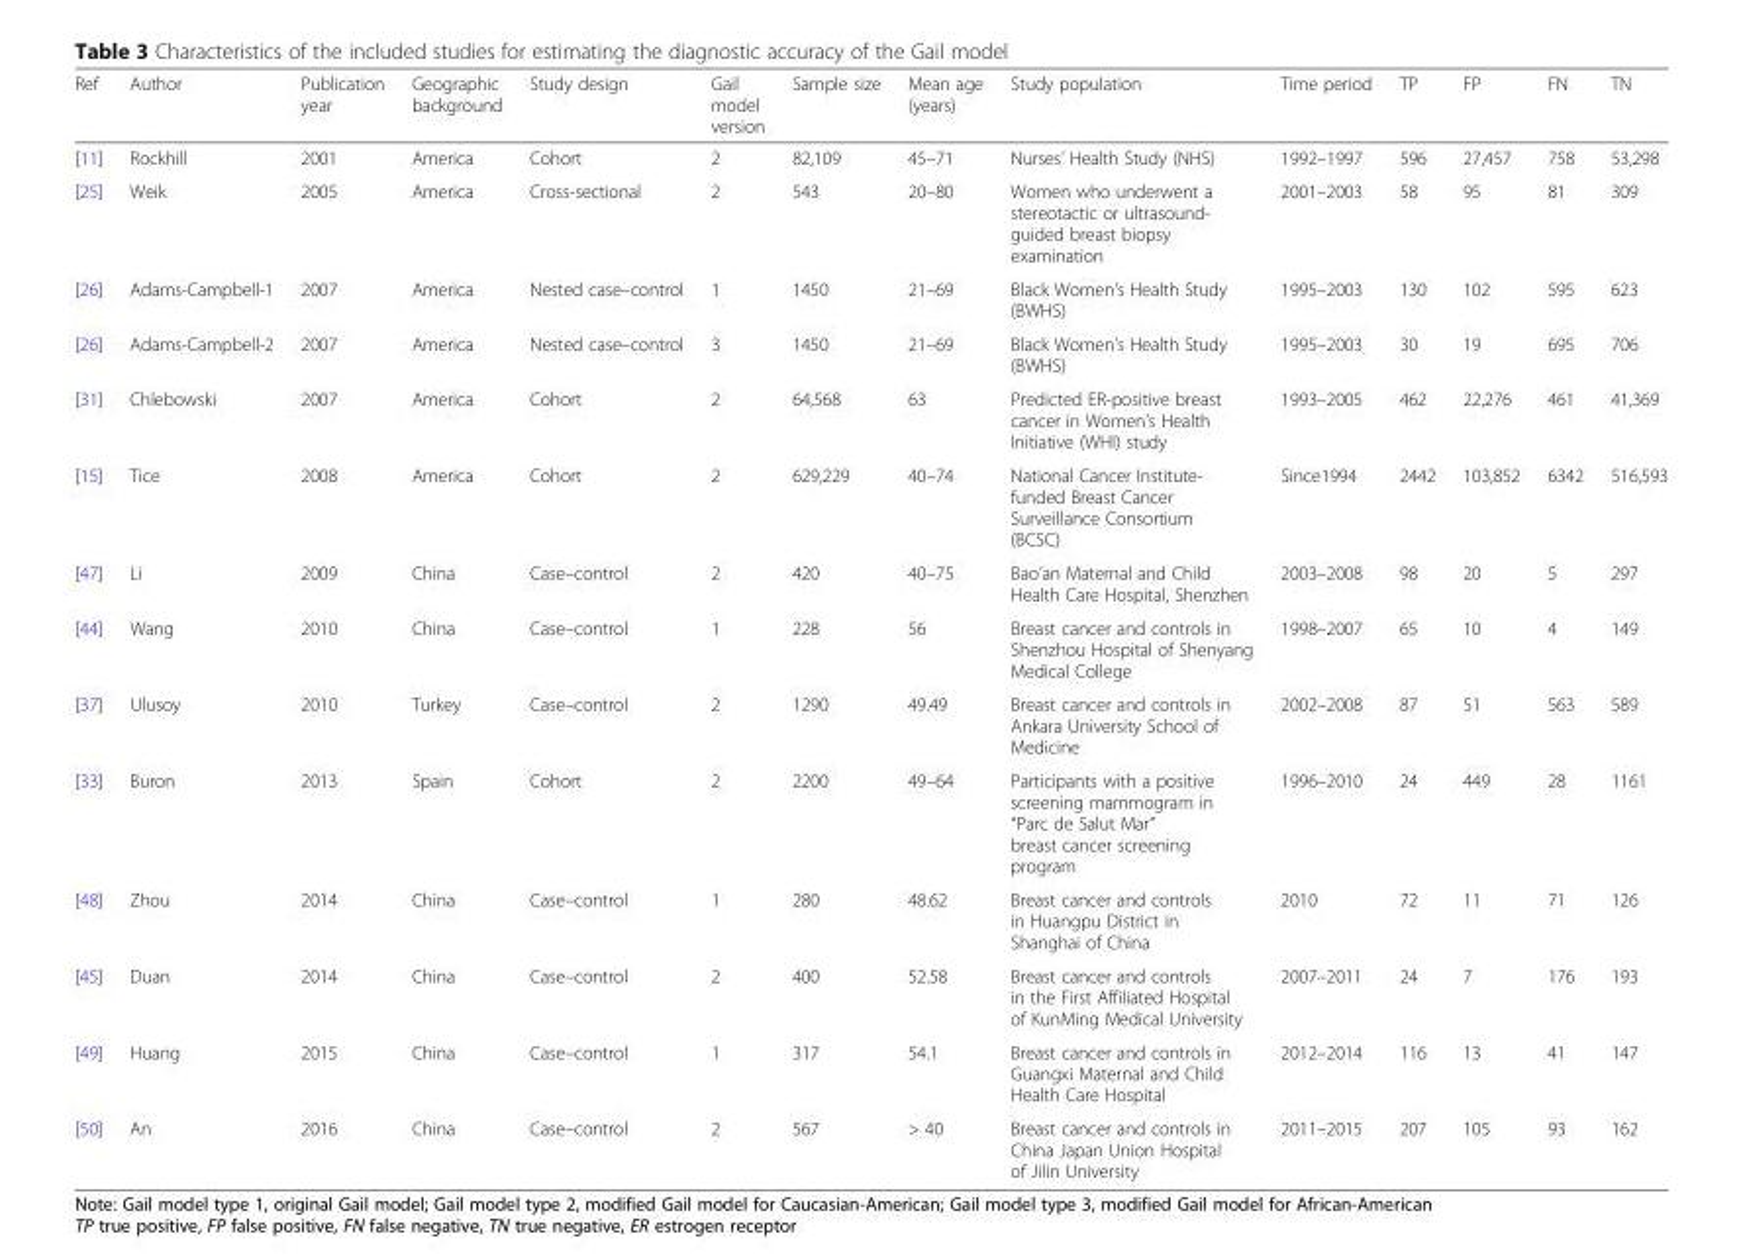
<table><thead><tr><td>Ref</td><td>Author</td><td>Publication year</td><td>Geographic background</td><td>Study design</td><td>Gail model version</td><td>Sample size</td><td>Mean age (years)</td><td>Study population</td><td>Time period</td><td>TP</td><td>FP</td><td>FN</td><td>TN</td></tr></thead><tbody><tr><td>[11]</td><td>Rockhill</td><td>2001</td><td>America</td><td>Cohort</td><td>2</td><td>82,109</td><td>45–71</td><td>Nurses’ Health Study (NHS)</td><td>1992–1997</td><td>596</td><td>27,457</td><td>758</td><td>53,298</td></tr><tr><td>[25]</td><td>Weik</td><td>2005</td><td>America</td><td>Cross-sectional</td><td>2</td><td>543</td><td>20–80</td><td>Women who underwent a stereotactic or ultrasound- guided breast biopsy examination</td><td>2001–2003</td><td>58</td><td>95</td><td>81</td><td>309</td></tr><tr><td>[26]</td><td>Adams-Campbell-1</td><td>2007</td><td>America</td><td>Nested case–control</td><td>1</td><td>1450</td><td>21–69</td><td>Black Women’s Health Study (BWHS)</td><td>1995–2003</td><td>130</td><td>102</td><td>595</td><td>623</td></tr><tr><td>[26]</td><td>Adams-Campbell-2</td><td>2007</td><td>America</td><td>Nested case–control</td><td>3</td><td>1450</td><td>21–69</td><td>Black Women’s Health Study (BWHS)</td><td>1995–2003</td><td>30</td><td>19</td><td>695</td><td>706</td></tr><tr><td>[31]</td><td>Chlebowski</td><td>2007</td><td>America</td><td>Cohort</td><td>2</td><td>64,568</td><td>63</td><td>Predicted ER-positive breast cancer in Women’s Health Initiative (WHI) study</td><td>1993–2005</td><td>462</td><td>22,276</td><td>461</td><td>41,369</td></tr><tr><td>[15]</td><td>Tice</td><td>2008</td><td>America</td><td>Cohort</td><td>2</td><td>629,229</td><td>40–74</td><td>National Cancer Institute- funded Breast Cancer Surveillance Consortium (BCSC)</td><td>Since1994</td><td>2442</td><td>103,852</td><td>6342</td><td>516,593</td></tr><tr><td>[47]</td><td>Li</td><td>2009</td><td>China</td><td>Case–control</td><td>2</td><td>420</td><td>40–75</td><td>Bao’an Maternal and Child Health Care Hospital, Shenzhen</td><td>2003–2008</td><td>98</td><td>20</td><td>5</td><td>297</td></tr><tr><td>[44]</td><td>Wang</td><td>2010</td><td>China</td><td>Case–control</td><td>1</td><td>228</td><td>56</td><td>Breast cancer and controls in Shenzhou Hospital of Shenyang Medical College</td><td>1998–2007</td><td>65</td><td>10</td><td>4</td><td>149</td></tr><tr><td>[37]</td><td>Ulusoy</td><td>2010</td><td>Turkey</td><td>Case–control</td><td>2</td><td>1290</td><td>49.49</td><td>Breast cancer and controls in Ankara University School of Medicine</td><td>2002–2008</td><td>87</td><td>51</td><td>563</td><td>589</td></tr><tr><td>[33]</td><td>Buron</td><td>2013</td><td>Spain</td><td>Cohort</td><td>2</td><td>2200</td><td>49–64</td><td>Participants with a positive screening mammogram in “Parc de Salut Mar” breast cancer screening program</td><td>1996–2010</td><td>24</td><td>449</td><td>28</td><td>1161</td></tr><tr><td>[48]</td><td>Zhou</td><td>2014</td><td>China</td><td>Case–control</td><td>1</td><td>280</td><td>48.62</td><td>Breast cancer and controls in Huangpu District in Shanghai of China</td><td>2010</td><td>72</td><td>11</td><td>71</td><td>126</td></tr><tr><td>[45]</td><td>Duan</td><td>2014</td><td>China</td><td>Case–control</td><td>2</td><td>400</td><td>52.58</td><td>Breast cancer and controls in the First Affiliated Hospital of KunMing Medical University</td><td>2007–2011</td><td>24</td><td>7</td><td>176</td><td>193</td></tr><tr><td>[49]</td><td>Huang</td><td>2015</td><td>China</td><td>Case–control</td><td>1</td><td>317</td><td>54.1</td><td>Breast cancer and controls in Guangxi Maternal and Child Health Care Hospital</td><td>2012–2014</td><td>116</td><td>13</td><td>41</td><td>147</td></tr><tr><td>[50]</td><td>An</td><td>2016</td><td>China</td><td>Case–control</td><td>2</td><td>567</td><td>&gt; 40</td><td>Breast cancer and controls in China Japan Union Hospital of Jilin University</td><td>2011–2015</td><td>207</td><td>105</td><td>93</td><td>162</td></tr></tbody></table>